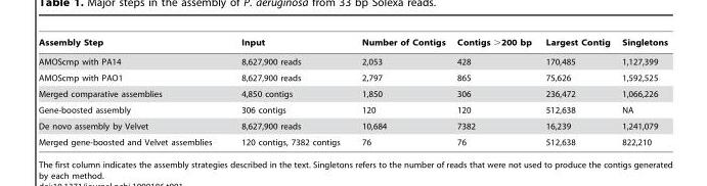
<table><thead><tr><td>Assembly Step</td><td>Input</td><td>Number of Contigs</td><td>Contigs &gt;200 bp</td><td>Largest Contig</td><td>Singletons</td></tr></thead><tbody><tr><td>AMOScmp with PA14</td><td>8,627,900 reads</td><td>2,053</td><td>428</td><td>170,485</td><td>1,127,399</td></tr><tr><td>AMOScmp with PAO1</td><td>8,627,900 reads</td><td>2,797</td><td>865</td><td>75,626</td><td>1,592,525</td></tr><tr><td>Merged comparative assemblies</td><td>4,850 contigs</td><td>1,850</td><td>306</td><td>236,472</td><td>1,066,226</td></tr><tr><td>Gene-boosted assembly</td><td>306 contigs</td><td>120</td><td>120</td><td>512,638</td><td>NA</td></tr><tr><td>De novo assembly by Velvet</td><td>8,627,900 reads</td><td>10,684</td><td>7382</td><td>16,239</td><td>1,241,079</td></tr><tr><td>Merged gene-boosted and Velvet assemblies</td><td>120 contigs, 7382 contigs</td><td>76</td><td>76</td><td>512,638</td><td>822,210</td></tr></tbody></table>